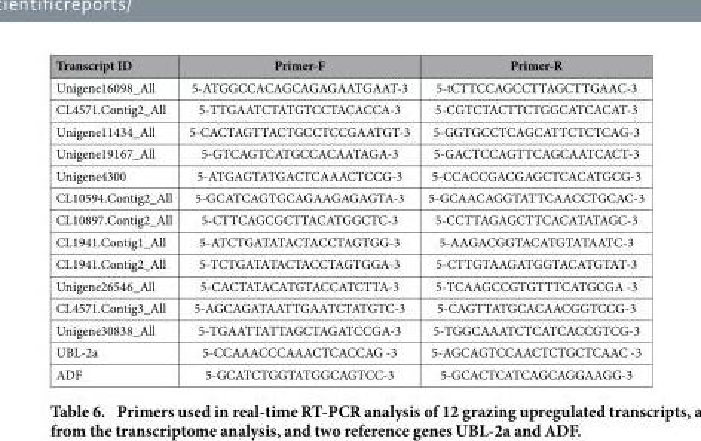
<table><thead><tr><td>Transcript ID</td><td>Primer-F</td><td>Primer-R</td></tr></thead><tbody><tr><td>Unigene16098_All</td><td>5-ATGGCCACAGCAGAGAATGAAT-3</td><td>5-tCTTCCAGCCTTAGCTTGAAC-3</td></tr><tr><td>CL4571.Contig2_All</td><td>5-TTGAATCTATGTCCTACACCA-3</td><td>5-CGTCTACTTCTGGCATCACAT-3</td></tr><tr><td>Unigene11434_All</td><td>5-CACTAGTTACTGCCTCCGAATGT-3</td><td>5-GGTGCCTCAGCATTCTCTCAG-3</td></tr><tr><td>Unigene19167_All</td><td>5-GTCAGTCATGCCACAATAGA-3</td><td>5-GACTCCAGTTCAGCAATCACT-3</td></tr><tr><td>Unigene4300</td><td>5-ATGAGTATGACTCAAACTCCG-3</td><td>5-CCACCGACGAGCTCACATGCG-3</td></tr><tr><td>CL10594.Contig2_All</td><td>5-GCATCAGTGCAGAAGAGAGTA-3</td><td>5-GCAACAGGTATTCAACCTGCAC-3</td></tr><tr><td>CL10897.Contig2_All</td><td>5-CTTCAGCGCTTACATGGCTC-3</td><td>5-CCTTAGAGCTTCACATATAGC-3</td></tr><tr><td>CL1941.Contig1_All</td><td>5-ATCTGATATACTACCTAGTGG-3</td><td>5-AAGACGGTACATGTATAATC-3</td></tr><tr><td>CL1941.Contig2_All</td><td>5-TCTGATATACTACCTAGTGGA-3</td><td>5-CTTGTAAGATGGTACATGTAT-3</td></tr><tr><td>Unigene26546_All</td><td>5-CACTATACATGTACCATCTTA-3</td><td>5-TCAAGCCGTGTTTCATGCGA -3</td></tr><tr><td>CL4571.Contig3_All</td><td>5-AGCAGATAATTGAATCTATGTC-3</td><td>5-CAGTTATGCACAACGGTCCG-3</td></tr><tr><td>Unigene30838_All</td><td>5-TGAATTATTAGCTAGATCCGA-3</td><td>5-TGGCAAATCTCATCACCGTCG-3</td></tr><tr><td>UBL-2a</td><td>5-CCAAACCCAAACTCACCAG -3</td><td>5-AGCAGTCCAACTCTGCTCAAC -3</td></tr><tr><td>ADF</td><td>5-GCATCTGGTATGGCAGTCC-3</td><td>5-GCACTCATCAGCAGGAAGG-3</td></tr></tbody></table>